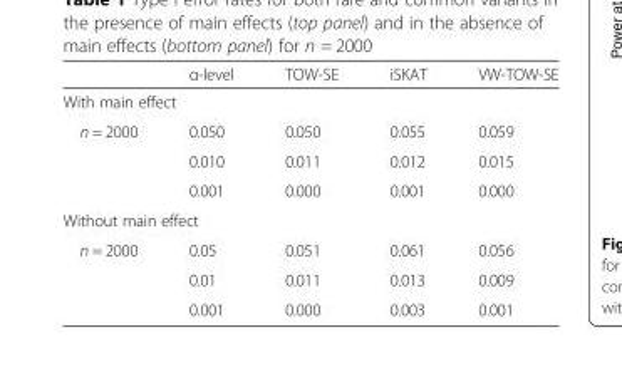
<table><thead><tr><td></td><td>α-level</td><td>TOW-SE</td><td>iSKAT</td><td>VW-TOW-SE</td></tr></thead><tbody><tr><td colspan="5">With main effect</td></tr><tr><td rowspan="3">n = 2000</td><td>0.050</td><td>0.050</td><td>0.055</td><td>0.059</td></tr><tr><td>0.010</td><td>0.011</td><td>0.012</td><td>0.015</td></tr><tr><td>0.001</td><td>0.000</td><td>0.001</td><td>0.000</td></tr><tr><td colspan="5">Without main effect</td></tr><tr><td rowspan="3">n = 2000</td><td>0.05</td><td>0.051</td><td>0.061</td><td>0.056</td></tr><tr><td>0.01</td><td>0.011</td><td>0.013</td><td>0.009</td></tr><tr><td>0.001</td><td>0.000</td><td>0.003</td><td>0.001</td></tr></tbody></table>